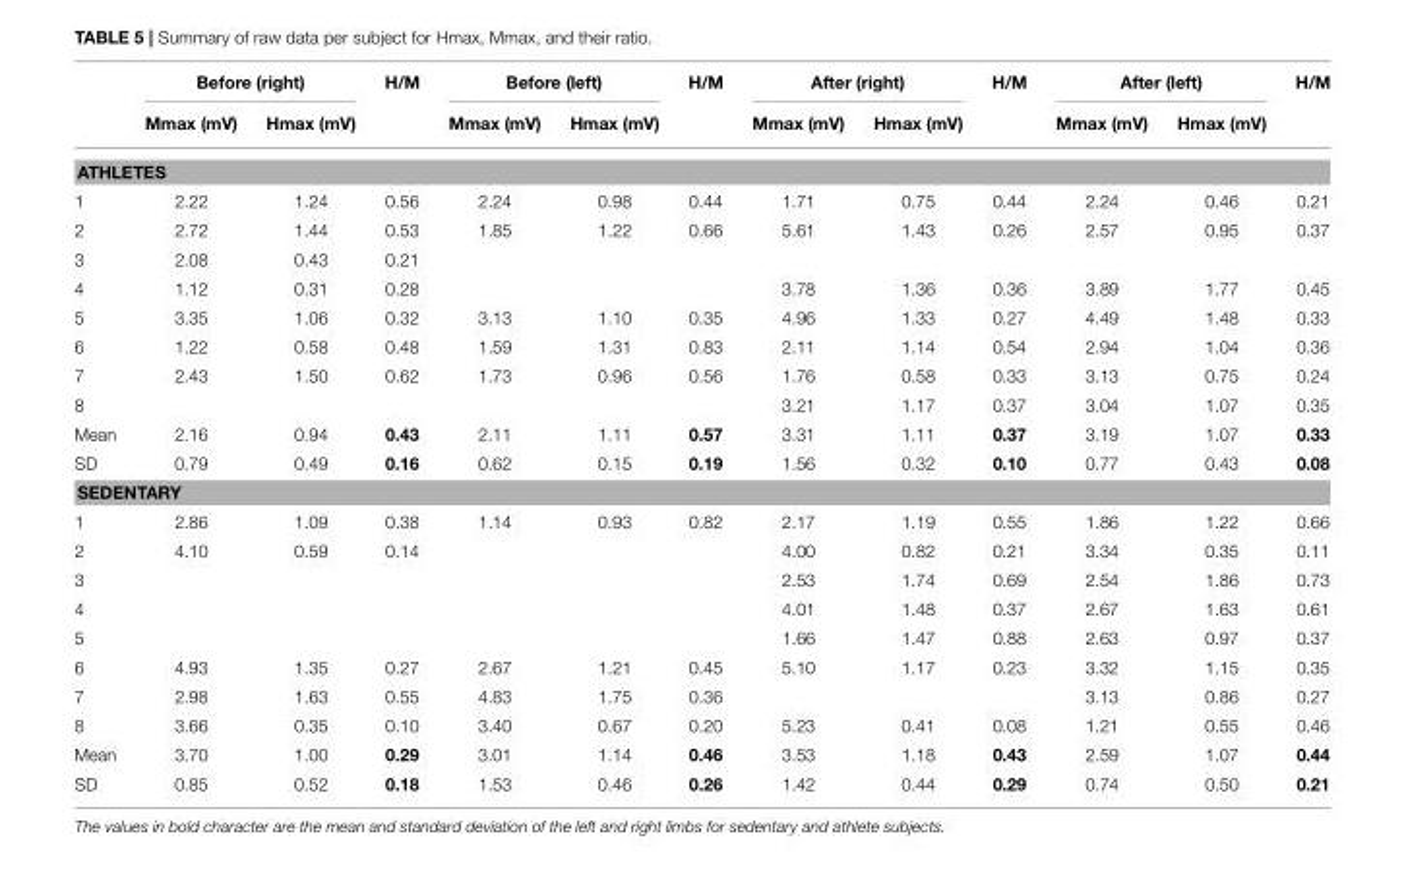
<table><thead><tr><td rowspan="2"></td><td colspan="2">Before (right)</td><td rowspan="2">H/M</td><td colspan="2">Before (left)</td><td rowspan="2">H/M</td><td colspan="2">After (right)</td><td rowspan="2">H/M</td><td colspan="2">After (left)</td><td rowspan="2">H/M</td></tr><tr><td>Mmax (mV)</td><td>Hmax (mV)</td><td>Mmax (mV)</td><td>Hmax (mV)</td><td>Mmax (mV)</td><td>Hmax (mV)</td><td>Mmax (mV)</td><td>Hmax (mV)</td></tr></thead><tbody><tr><td colspan="13">ATHLETES</td></tr><tr><td>1</td><td>2.22</td><td>1.24</td><td>0.56</td><td>2.24</td><td>0.98</td><td>0.44</td><td>1.71</td><td>0.75</td><td>0.44</td><td>2.24</td><td>0.46</td><td>0.21</td></tr><tr><td>2</td><td>2.72</td><td>1.44</td><td>0.53</td><td>1.85</td><td>1.22</td><td>0.66</td><td>5.61</td><td>1.43</td><td>0.26</td><td>2.57</td><td>0.95</td><td>0.37</td></tr><tr><td>3</td><td>2.08</td><td>0.43</td><td>0.21</td><td></td><td></td><td></td><td></td><td></td><td></td><td></td><td></td><td></td></tr><tr><td>4</td><td>1.12</td><td>0.31</td><td>0.28</td><td></td><td></td><td></td><td>3.78</td><td>1.36</td><td>0.36</td><td>3.89</td><td>1.77</td><td>0.45</td></tr><tr><td>5</td><td>3.35</td><td>1.06</td><td>0.32</td><td>3.13</td><td>1.10</td><td>0.35</td><td>4.96</td><td>1.33</td><td>0.27</td><td>4.49</td><td>1.48</td><td>0.33</td></tr><tr><td>6</td><td>1.22</td><td>0.58</td><td>0.48</td><td>1.59</td><td>1.31</td><td>0.83</td><td>2.11</td><td>1.14</td><td>0.54</td><td>2.94</td><td>1.04</td><td>0.36</td></tr><tr><td>7</td><td>2.43</td><td>1.50</td><td>0.62</td><td>1.73</td><td>0.96</td><td>0.56</td><td>1.76</td><td>0.58</td><td>0.33</td><td>3.13</td><td>0.75</td><td>0.24</td></tr><tr><td>8</td><td></td><td></td><td></td><td></td><td></td><td></td><td>3.21</td><td>1.17</td><td>0.37</td><td>3.04</td><td>1.07</td><td>0.35</td></tr><tr><td>Mean</td><td>2.16</td><td>0.94</td><td>0.43</td><td>2.11</td><td>1.11</td><td>0.57</td><td>3.31</td><td>1.11</td><td>0.37</td><td>3.19</td><td>1.07</td><td>0.33</td></tr><tr><td>SD</td><td>0.79</td><td>0.49</td><td>0.16</td><td>0.62</td><td>0.15</td><td>0.19</td><td>1.56</td><td>0.32</td><td>0.10</td><td>0.77</td><td>0.43</td><td>0.08</td></tr><tr><td colspan="13">SEDENTARY</td></tr><tr><td>1</td><td>2.86</td><td>1.09</td><td>0.38</td><td>1.14</td><td>0.93</td><td>0.82</td><td>2.17</td><td>1.19</td><td>0.55</td><td>1.86</td><td>1.22</td><td>0.66</td></tr><tr><td>2</td><td>4.10</td><td>0.59</td><td>0.14</td><td></td><td></td><td></td><td>4.00</td><td>0.82</td><td>0.21</td><td>3.34</td><td>0.35</td><td>0.11</td></tr><tr><td>3</td><td></td><td></td><td></td><td></td><td></td><td></td><td>2.53</td><td>1.74</td><td>0.69</td><td>2.54</td><td>1.86</td><td>0.73</td></tr><tr><td>4</td><td></td><td></td><td></td><td></td><td></td><td></td><td>4.01</td><td>1.48</td><td>0.37</td><td>2.67</td><td>1.63</td><td>0.61</td></tr><tr><td>5</td><td></td><td></td><td></td><td></td><td></td><td></td><td>1.66</td><td>1.47</td><td>0.88</td><td>2.63</td><td>0.97</td><td>0.37</td></tr><tr><td>6</td><td>4.93</td><td>1.35</td><td>0.27</td><td>2.67</td><td>1.21</td><td>0.45</td><td>5.10</td><td>1.17</td><td>0.23</td><td>3.32</td><td>1.15</td><td>0.35</td></tr><tr><td>7</td><td>2.98</td><td>1.63</td><td>0.55</td><td>4.83</td><td>1.75</td><td>0.36</td><td></td><td></td><td></td><td>3.13</td><td>0.86</td><td>0.27</td></tr><tr><td>8</td><td>3.66</td><td>0.35</td><td>0.10</td><td>3.40</td><td>0.67</td><td>0.20</td><td>5.23</td><td>0.41</td><td>0.08</td><td>1.21</td><td>0.55</td><td>0.46</td></tr><tr><td>Mean</td><td>3.70</td><td>1.00</td><td>0.29</td><td>3.01</td><td>1.14</td><td>0.46</td><td>3.53</td><td>1.18</td><td>0.43</td><td>2.59</td><td>1.07</td><td>0.44</td></tr><tr><td>SD</td><td>0.85</td><td>0.52</td><td>0.18</td><td>1.53</td><td>0.46</td><td>0.26</td><td>1.42</td><td>0.44</td><td>0.29</td><td>0.74</td><td>0.50</td><td>0.21</td></tr></tbody></table>